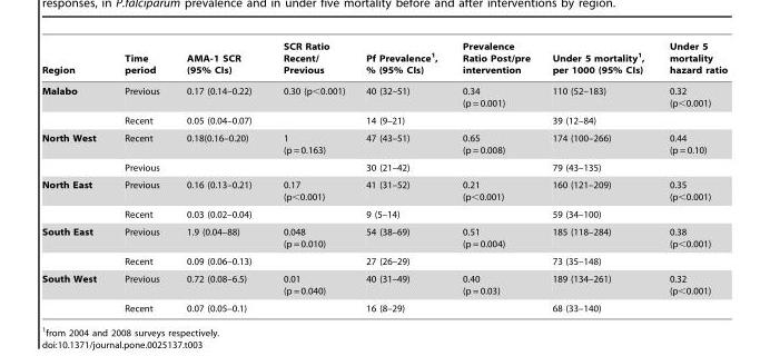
<table><thead><tr><td>Region</td><td>Time period</td><td>AMA-1 SCR (95% CIs)</td><td>SCR Ratio Recent/ Previous</td><td>Pf Prevalence<sup>1</sup>, % (95% CIs)</td><td>Prevalence Ratio Post/pre intervention</td><td>Under 5 mortality<sup>1</sup>, per 1000 (95% CIs)</td><td>Under 5 mortality hazard ratio</td></tr></thead><tbody><tr><td rowspan="2">Malabo</td><td>Previous</td><td>0.17 (0.14–0.22)</td><td>0.30 (p&lt;0.001)</td><td>40 (32–51)</td><td>0.34 (p = 0.001)</td><td>110 (52–183)</td><td>0.32 (p&lt;0.001)</td></tr><tr><td>Recent</td><td>0.05 (0.04–0.07)</td><td></td><td>14 (9–21)</td><td></td><td>39 (12–84)</td><td></td></tr><tr><td rowspan="2">North West</td><td>Recent</td><td>0.18(0.16–0.20)</td><td>1 (p = 0.163)</td><td>47 (43–51)</td><td>0.65 (p = 0.008)</td><td>174 (100–266)</td><td>0.44 (p = 0.10)</td></tr><tr><td>Previous</td><td></td><td></td><td>30 (21–42)</td><td></td><td>79 (43–135)</td><td></td></tr><tr><td rowspan="2">North East</td><td>Previous</td><td>0.16 (0.13–0.21)</td><td>0.17 (p&lt;0.001)</td><td>41 (31–52)</td><td>0.21 (p&lt;0.001)</td><td>160 (121–209)</td><td>0.35 (p&lt;0.001)</td></tr><tr><td>Recent</td><td>0.03 (0.02–0.04)</td><td></td><td>9 (5–14)</td><td></td><td>59 (34–100)</td><td></td></tr><tr><td rowspan="2">South East</td><td>Previous</td><td>1.9 (0.04–88)</td><td>0.048 (p = 0.010)</td><td>54 (38–69)</td><td>0.51 (p = 0.004)</td><td>185 (118–284)</td><td>0.38 (p&lt;0.001)</td></tr><tr><td>Recent</td><td>0.09 (0.06–0.13)</td><td></td><td>27 (26–29)</td><td></td><td>73 (35–148)</td><td></td></tr><tr><td rowspan="2">South West</td><td>Previous</td><td>0.72 (0.08–6.5)</td><td>0.01 (p = 0.040)</td><td>40 (31–49)</td><td>0.40 (p = 0.03)</td><td>189 (134–261)</td><td>0.32 (p&lt;0.001)</td></tr><tr><td>Recent</td><td>0.07 (0.05–0.1)</td><td></td><td>16 (8–29)</td><td></td><td>68 (33–140)</td><td></td></tr></tbody></table>